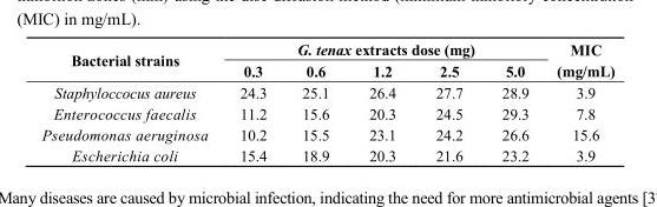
<table><thead><tr><td rowspan="2">Bacterial strains</td><td colspan="5">G. tenax extracts dose (mg)</td><td rowspan="2">MIC (mg/mL)</td></tr><tr><td>0.3</td><td>0.6</td><td>1.2</td><td>2.5</td><td>5.0</td></tr></thead><tbody><tr><td>Staphyloccocus aureus</td><td>24.3</td><td>25.1</td><td>26.4</td><td>27.7</td><td>28.9</td><td>3.9</td></tr><tr><td>Enterococcus faecalis</td><td>11.2</td><td>15.6</td><td>20.3</td><td>24.5</td><td>29.3</td><td>7.8</td></tr><tr><td>Pseudomonas aeruginosa</td><td>10.2</td><td>15.5</td><td>23.1</td><td>24.2</td><td>26.6</td><td>15.6</td></tr><tr><td>Escherichia coli</td><td>15.4</td><td>18.9</td><td>20.3</td><td>21.6</td><td>23.2</td><td>3.9</td></tr></tbody></table>